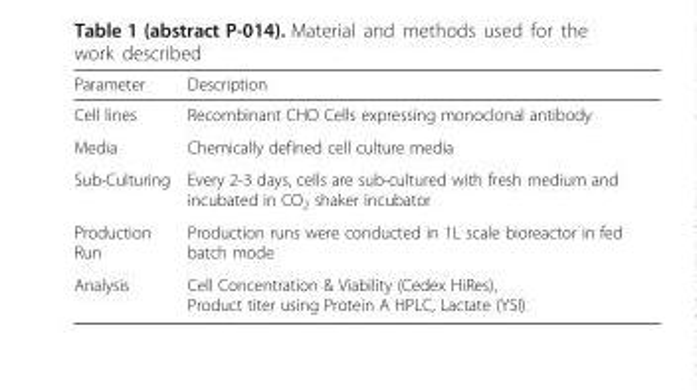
<table><thead><tr><td>Parameter</td><td>Description</td></tr></thead><tbody><tr><td>Cell lines</td><td>Recombinant CHO Cells expressing monoclonal antibody</td></tr><tr><td>Media</td><td>Chemically defined cell culture media</td></tr><tr><td>Sub-Culturing</td><td>Every 2-3 days, cells are sub-cultured with fresh medium and incubated in CO<sub>2</sub> shaker incubator</td></tr><tr><td>Production Run</td><td>Production runs were conducted in 1L scale bioreactor in fed batch mode</td></tr><tr><td>Analysis</td><td>Cell Concentration &amp; Viability (Cedex HiRes), Product titer using Protein A HPLC, Lactate (YSI)</td></tr></tbody></table>